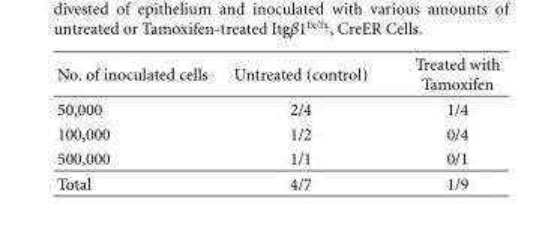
<table><thead><tr><td>No. of inoculated cells</td><td>Untreated (control)</td><td>Treated with Tamoxifen</td></tr></thead><tbody><tr><td>50,000</td><td>2/4</td><td>1/4</td></tr><tr><td>100,000</td><td>1/2</td><td>0/4</td></tr><tr><td>500,000</td><td>1/1</td><td>0/1</td></tr><tr><td>Total</td><td>4/7</td><td>1/9</td></tr></tbody></table>